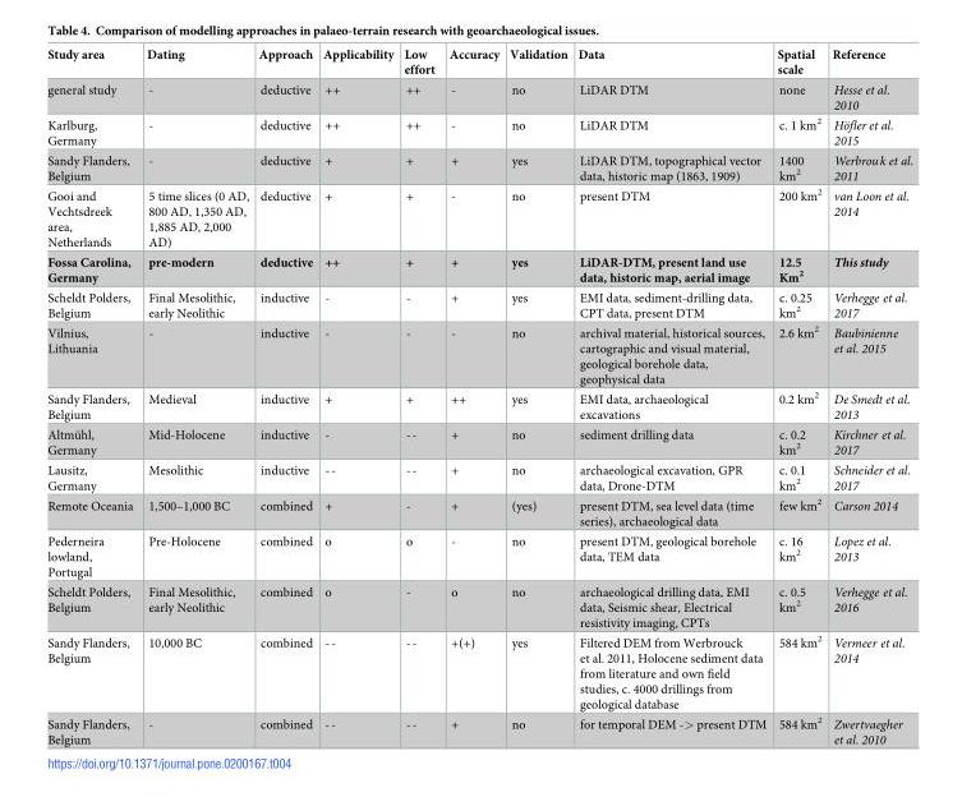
<table><thead><tr><td>Study area</td><td>Dating</td><td>Approach</td><td>Applicability</td><td>Low effort</td><td>Accuracy</td><td>Validation</td><td>Data</td><td>Spatial scale</td><td>Reference</td></tr></thead><tbody><tr><td>general study</td><td>-</td><td>deductive</td><td>++</td><td>++</td><td>-</td><td>no</td><td>LiDAR DTM</td><td>none</td><td>Hesse et al. 2010</td></tr><tr><td>Karlburg, Germany</td><td>-</td><td>deductive</td><td>++</td><td>++</td><td>-</td><td>no</td><td>LiDAR DTM</td><td>c. 1 km<sup>2</sup></td><td>Höfler et al. 2015</td></tr><tr><td>Sandy Flanders, Belgium</td><td>-</td><td>deductive</td><td>+</td><td>+</td><td>+</td><td>yes</td><td>LiDAR DTM, topographical vector data, historic map (1863, 1909)</td><td>1400 km<sup>2</sup></td><td>Werbrouk et al. 2011</td></tr><tr><td>Gooi and Vechtsdreek area, Netherlands</td><td>5 time slices (0 AD, 800 AD, 1,350 AD, 1,885 AD, 2,000 AD)</td><td>deductive</td><td>+</td><td>+</td><td>-</td><td>no</td><td>present DTM</td><td>200 km<sup>2</sup></td><td>van Loon et al. 2014</td></tr><tr><td>Fossa Carolina, Germany</td><td>pre-modern</td><td>deductive</td><td>++</td><td>+</td><td>+</td><td>yes</td><td>LiDAR-DTM, present land use data, historic map, aerial image</td><td>12.5 Km<sup>2</sup></td><td>This study</td></tr><tr><td>Scheldt Polders, Belgium</td><td>Final Mesolithic, early Neolithic</td><td>inductive</td><td>-</td><td>-</td><td>+</td><td>yes</td><td>EMI data, sediment-drilling data, CPT data, present DTM</td><td>c. 0.25 km<sup>2</sup></td><td>Verhegge et al. 2017</td></tr><tr><td>Vilnius, Lithuania</td><td>-</td><td>inductive</td><td>-</td><td>-</td><td>-</td><td>no</td><td>archival material, historical sources, cartographic and visual material, geological borehole data, geophysical data</td><td>2.6 km<sup>2</sup></td><td>Baubinienne et al. 2015</td></tr><tr><td>Sandy Flanders, Belgium</td><td>Medieval</td><td>inductive</td><td>+</td><td>+</td><td>++</td><td>yes</td><td>EMI data, archaeological excavations</td><td>0.2 km<sup>2</sup></td><td>De Smedt et al. 2013</td></tr><tr><td>Altmu¨hl, Germany</td><td>Mid-Holocene</td><td>inductive</td><td>-</td><td>--</td><td>+</td><td>no</td><td>sediment drilling data</td><td>c. 0.2 km<sup>2</sup></td><td>Kirchner et al. 2017</td></tr><tr><td>Lausitz, Germany</td><td>Mesolithic</td><td>inductive</td><td>--</td><td>--</td><td>+</td><td>no</td><td>archaeological excavation, GPR data, Drone-DTM</td><td>c. 0.1 km<sup>2</sup></td><td>Schneider et al. 2017</td></tr><tr><td>Remote Oceania</td><td>1,500–1,000 BC</td><td>combined</td><td>+</td><td>-</td><td>+</td><td>(yes)</td><td>present DTM, sea level data (time series), archaeological data</td><td>few km<sup>2</sup></td><td>Carson 2014</td></tr><tr><td>Pederneira lowland, Portugal</td><td>Pre-Holocene</td><td>combined</td><td>o</td><td>o</td><td>-</td><td>no</td><td>present DTM, geological borehole data, TEM data</td><td>c. 16 km<sup>2</sup></td><td>Lopez et al. 2013</td></tr><tr><td>Scheldt Polders, Belgium</td><td>Final Mesolithic, early Neolithic</td><td>combined</td><td>o</td><td>-</td><td>o</td><td>no</td><td>archaeological drilling data, EMI data, Seismic shear, Electrical resistivity imaging, CPTs</td><td>c. 0.5 km<sup>2</sup></td><td>Verhegge et al. 2016</td></tr><tr><td>Sandy Flanders, Belgium</td><td>10,000 BC</td><td>combined</td><td>--</td><td>--</td><td>+(+)</td><td>yes</td><td>Filtered DEM from Werbrouck et al. 2011, Holocene sediment data from literature and own field studies, c. 4000 drillings from geological database</td><td>584 km<sup>2</sup></td><td>Vermeer et al. 2014</td></tr><tr><td>Sandy Flanders, Belgium</td><td>-</td><td>combined</td><td>--</td><td>--</td><td>+</td><td>no</td><td>for temporal DEM -&gt; present DTM</td><td>584 km<sup>2</sup></td><td>Zwertvaegher et al. 2010</td></tr></tbody></table>